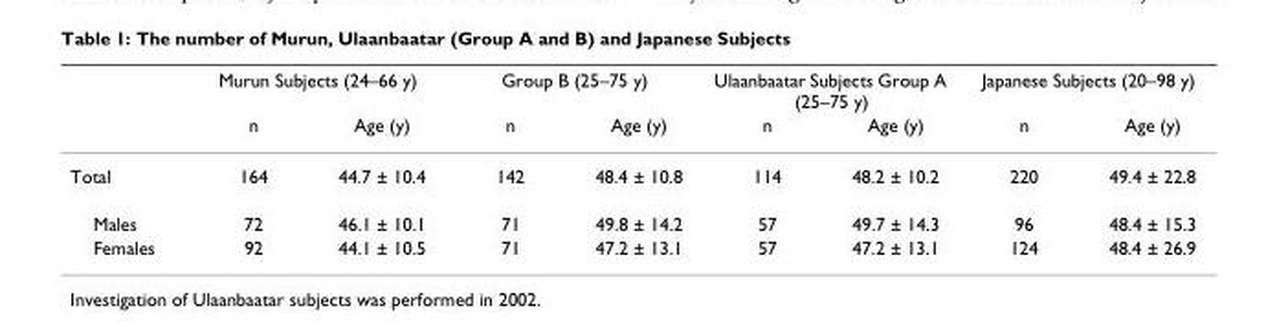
<table><thead><tr><td rowspan="2"></td><td colspan="2">Murun Subjects (24–66 y)</td><td colspan="2">Group B (25–75 y)</td><td colspan="2">Ulaanbaatar Subjects Group A (25–75 y)</td><td colspan="2">Japanese Subjects (20–98 y)</td></tr><tr><td>n</td><td>Age (y)</td><td>n</td><td>Age (y)</td><td>n</td><td>Age (y)</td><td>n</td><td>Age (y)</td></tr></thead><tbody><tr><td>Total</td><td>164</td><td>44.7 ± 10.4</td><td>142</td><td>48.4 ± 10.8</td><td>114</td><td>48.2 ± 10.2</td><td>220</td><td>49.4 ± 22.8</td></tr><tr><td>Males</td><td>72</td><td>46.1 ± 10.1</td><td>71</td><td>49.8 ± 14.2</td><td>57</td><td>49.7 ± 14.3</td><td>96</td><td>48.4 ± 15.3</td></tr><tr><td>Females</td><td>92</td><td>44.1 ± 10.5</td><td>71</td><td>47.2 ± 13.1</td><td>57</td><td>47.2 ± 13.1</td><td>124</td><td>48.4 ± 26.9</td></tr></tbody></table>